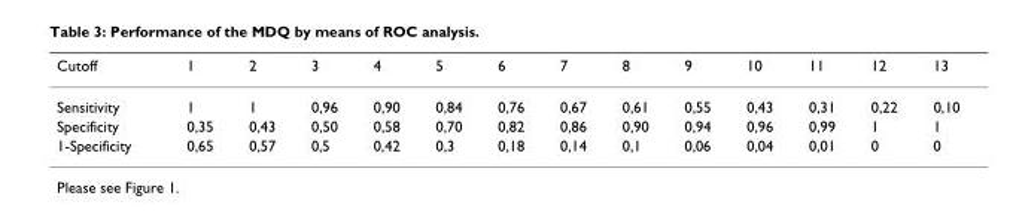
<table><thead><tr><td>Cutoff</td><td>1</td><td>2</td><td>3</td><td>4</td><td>5</td><td>6</td><td>7</td><td>8</td><td>9</td><td>10</td><td>11</td><td>12</td><td>13</td></tr></thead><tbody><tr><td>Sensitivity</td><td>1</td><td>1</td><td>0,96</td><td>0,90</td><td>0,84</td><td>0,76</td><td>0,67</td><td>0,61</td><td>0,55</td><td>0,43</td><td>0,31</td><td>0,22</td><td>0,10</td></tr><tr><td>Specificity</td><td>0,35</td><td>0,43</td><td>0,50</td><td>0,58</td><td>0,70</td><td>0,82</td><td>0,86</td><td>0,90</td><td>0,94</td><td>0,96</td><td>0,99</td><td>1</td><td>1</td></tr><tr><td>1-Specificity</td><td>0,65</td><td>0,57</td><td>0,5</td><td>0,42</td><td>0,3</td><td>0,18</td><td>0,14</td><td>0,1</td><td>0,06</td><td>0,04</td><td>0,01</td><td>0</td><td>0</td></tr></tbody></table>